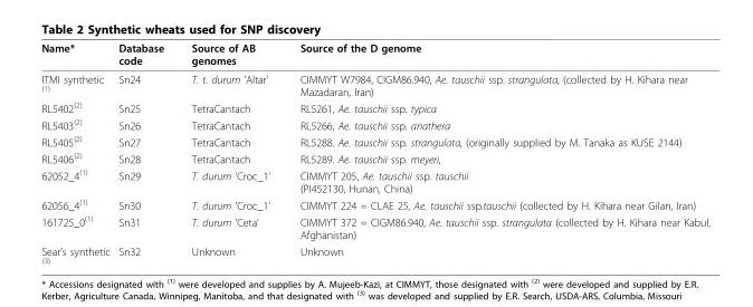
<table><thead><tr><td>Name*</td><td>Database code</td><td>Source of AB genomes</td><td>Source of the D genome</td></tr></thead><tbody><tr><td>ITMI synthetic <sup>(1)</sup></td><td>Sn24</td><td>T. t. durum ’Altar’</td><td>CIMMYT W7984, CIGM86.940, Ae. tauschii ssp. strangulata, (collected by H. Kihara near Mazadaran, Iran)</td></tr><tr><td>RL5402<sup>(2)</sup></td><td>Sn25</td><td>TetraCantach</td><td>RL5261, Ae. tauschii ssp. typica</td></tr><tr><td>RL5403<sup>(2)</sup></td><td>Sn26</td><td>TetraCantach</td><td>RL5266, Ae. tauschii ssp. anathera</td></tr><tr><td>RL5405<sup>(2)</sup></td><td>Sn27</td><td>TetraCantach</td><td>RL5288. Ae. tauschii ssp. strangulata, (originally supplied by M. Tanaka as KUSE 2144)</td></tr><tr><td>RL5406<sup>(2)</sup></td><td>Sn28</td><td>TetraCantach</td><td>RL5289. Ae. tauschii ssp. meyeri,</td></tr><tr><td>62052_4<sup>(1)</sup></td><td>Sn29</td><td>T. durum ’Croc_1’</td><td>CIMMYT 205, Ae. tauschii ssp. tauschii (PI452130, Hunan, China)</td></tr><tr><td>62056_4<sup>(1)</sup></td><td>Sn30</td><td>T. durum ’Croc_1’</td><td>CIMMYT 224 = CLAE 25, Ae. tauschii ssp.tauschii (collected by H. Kihara near Gilan, Iran)</td></tr><tr><td>161725_0<sup>(1)</sup></td><td>Sn31</td><td>T. durum ’Ceta’</td><td>CIMMYT 372 = CIGM86.940, Ae. tauschii ssp. strangulata (collected by H. Kihara near Kabul, Afghanistan)</td></tr><tr><td>Sear’s synthetic <sup>(3)</sup></td><td>Sn32</td><td>Unknown</td><td>Unknown</td></tr></tbody></table>